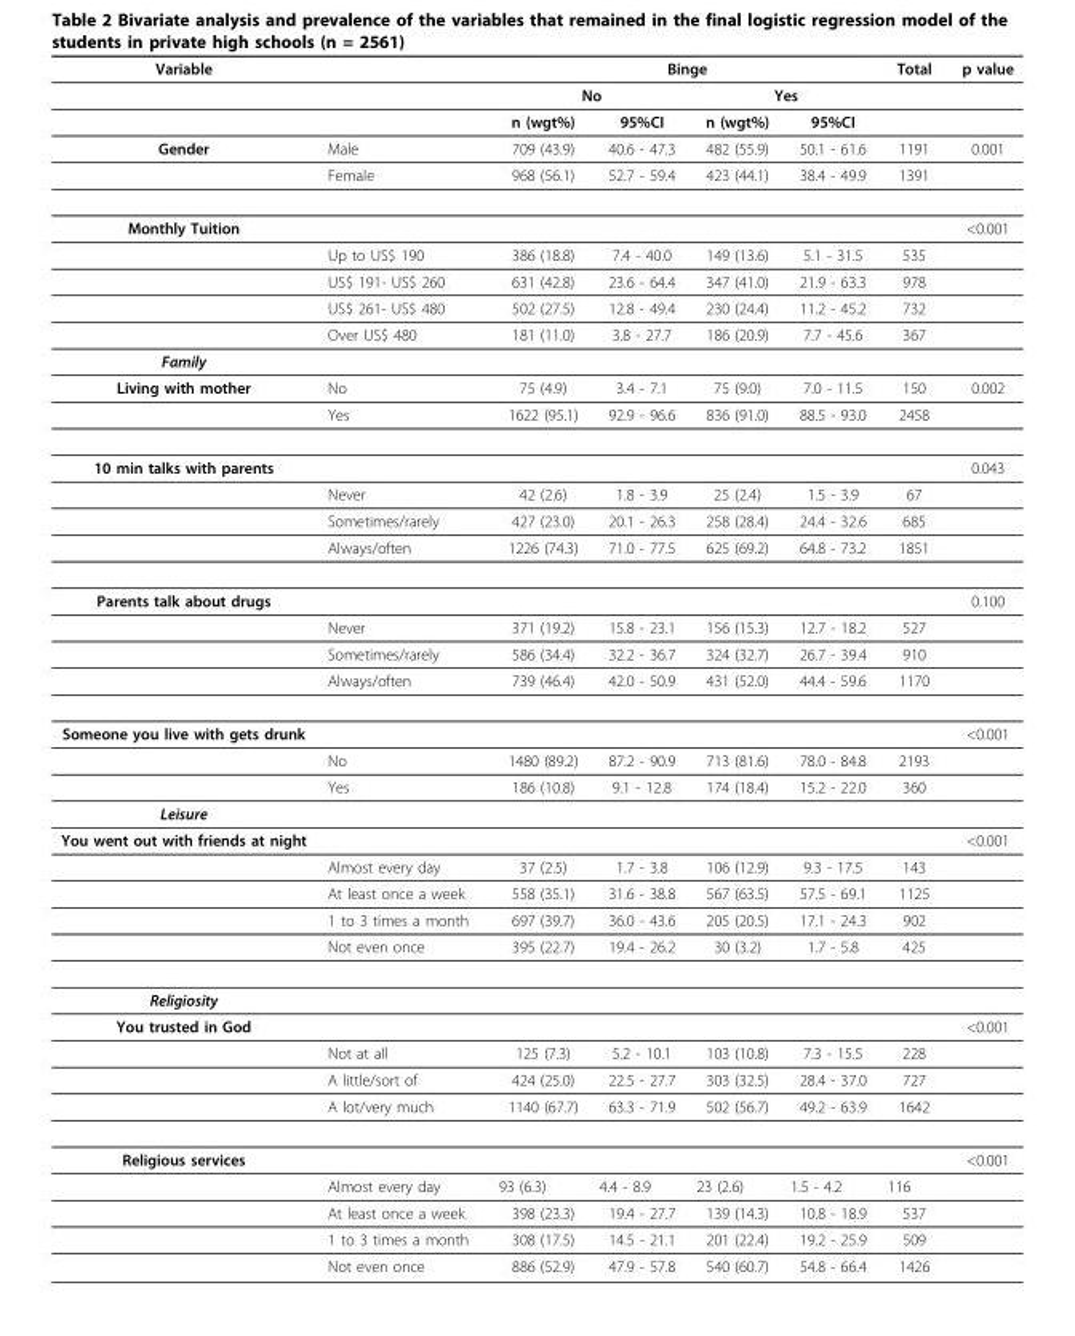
<table><thead><tr><td rowspan="3">Variable</td><td rowspan="3"></td><td colspan="4">Binge</td><td rowspan="3">Total</td><td rowspan="3">p value</td></tr><tr><td colspan="2">No</td><td colspan="2">Yes</td></tr><tr><td>n (wgt%)</td><td>95%CI</td><td>n (wgt%)</td><td>95%CI</td></tr></thead><tbody><tr><td rowspan="2">Gender</td><td>Male</td><td>709 (43.9)</td><td>40.6 - 47.3</td><td>482 (55.9)</td><td>50.1 - 61.6</td><td>1191</td><td>0.001</td></tr><tr><td>Female</td><td>968 (56.1)</td><td>52.7 - 59.4</td><td>423 (44.1)</td><td>38.4 - 49.9</td><td>1391</td><td></td></tr><tr><td rowspan="5">Monthly Tuition</td><td></td><td></td><td></td><td></td><td></td><td></td><td>&lt;0.001</td></tr><tr><td>Up to US$ 190</td><td>386 (18.8)</td><td>7.4 - 40.0</td><td>149 (13.6)</td><td>5.1 - 31.5</td><td>535</td><td></td></tr><tr><td>US$ 191- US$ 260</td><td>631 (42.8)</td><td>23.6 - 64.4</td><td>347 (41.0)</td><td>21.9 - 63.3</td><td>978</td><td></td></tr><tr><td>US$ 261- US$ 480</td><td>502 (27.5)</td><td>12.8 - 49.4</td><td>230 (24.4)</td><td>11.2 - 45.2</td><td>732</td><td></td></tr><tr><td>Over US$ 480</td><td>181 (11.0)</td><td>3.8 - 27.7</td><td>186 (20.9)</td><td>7.7 - 45.6</td><td>367</td><td></td></tr><tr><td colspan="8">Family</td></tr><tr><td rowspan="2">Living with mother</td><td>No</td><td>75 (4.9)</td><td>3.4 - 7.1</td><td>75 (9.0)</td><td>7.0 - 11.5</td><td>150</td><td>0.002</td></tr><tr><td>Yes</td><td>1622 (95.1)</td><td>92.9 - 96.6</td><td>836 (91.0)</td><td>88.5 - 93.0</td><td>2458</td><td></td></tr><tr><td rowspan="4">10 min talks with parents</td><td></td><td></td><td></td><td></td><td></td><td></td><td>0.043</td></tr><tr><td>Never</td><td>42 (2.6)</td><td>1.8 - 3.9</td><td>25 (2.4)</td><td>1.5 - 3.9</td><td>67</td><td></td></tr><tr><td>Sometimes/rarely</td><td>427 (23.0)</td><td>20.1 - 26.3</td><td>258 (28.4)</td><td>24.4 - 32.6</td><td>685</td><td></td></tr><tr><td>Always/often</td><td>1226 (74.3)</td><td>71.0 - 77.5</td><td>625 (69.2)</td><td>64.8 - 73.2</td><td>1851</td><td></td></tr><tr><td rowspan="4">Parents talk about drugs</td><td></td><td></td><td></td><td></td><td></td><td></td><td>0.100</td></tr><tr><td>Never</td><td>371 (19.2)</td><td>15.8 - 23.1</td><td>156 (15.3)</td><td>12.7 - 18.2</td><td>527</td><td></td></tr><tr><td>Sometimes/rarely</td><td>586 (34.4)</td><td>32.2 - 36.7</td><td>324 (32.7)</td><td>26.7 - 39.4</td><td>910</td><td></td></tr><tr><td>Always/often</td><td>739 (46.4)</td><td>42.0 - 50.9</td><td>431 (52.0)</td><td>44.4 - 59.6</td><td>1170</td><td></td></tr><tr><td rowspan="3">Someone you live with gets drunk</td><td></td><td></td><td></td><td></td><td></td><td></td><td>&lt;0.001</td></tr><tr><td>No</td><td>1480 (89.2)</td><td>87.2 - 90.9</td><td>713 (81.6)</td><td>78.0 - 84.8</td><td>2193</td><td></td></tr><tr><td>Yes</td><td>186 (10.8)</td><td>9.1 - 12.8</td><td>174 (18.4)</td><td>15.2 - 22.0</td><td>360</td><td></td></tr><tr><td colspan="8">Leisure</td></tr><tr><td rowspan="5">You went out with friends at night</td><td></td><td></td><td></td><td></td><td></td><td></td><td>&lt;0.001</td></tr><tr><td>Almost every day</td><td>37 (2.5)</td><td>1.7 - 3.8</td><td>106 (12.9)</td><td>9.3 - 17.5</td><td>143</td><td></td></tr><tr><td>At least once a week</td><td>558 (35.1)</td><td>31.6 - 38.8</td><td>567 (63.5)</td><td>57.5 - 69.1</td><td>1125</td><td></td></tr><tr><td>1 to 3 times a month</td><td>697 (39.7)</td><td>36.0 - 43.6</td><td>205 (20.5)</td><td>17.1 - 24.3</td><td>902</td><td></td></tr><tr><td>Not even once</td><td>395 (22.7)</td><td>19.4 - 26.2</td><td>30 (3.2)</td><td>1.7 - 5.8</td><td>425</td><td></td></tr><tr><td colspan="8">Religiosity</td></tr><tr><td rowspan="4">You trusted in God</td><td></td><td></td><td></td><td></td><td></td><td></td><td>&lt;0.001</td></tr><tr><td>Not at all</td><td>125 (7.3)</td><td>5.2 - 10.1</td><td>103 (10.8)</td><td>7.3 - 15.5</td><td>228</td><td></td></tr><tr><td>A little/sort of</td><td>424 (25.0)</td><td>22.5 - 27.7</td><td>303 (32.5)</td><td>28.4 - 37.0</td><td>727</td><td></td></tr><tr><td>A lot/very much</td><td>1140 (67.7)</td><td>63.3 - 71.9</td><td>502 (56.7)</td><td>49.2 - 63.9</td><td>1642</td><td></td></tr><tr><td rowspan="5">Religious services</td><td></td><td></td><td></td><td></td><td></td><td></td><td>&lt;0.001</td></tr><tr><td>Almost every day</td><td>93 (6.3)</td><td>4.4 - 8.9</td><td>23 (2.6)</td><td>1.5 - 4.2</td><td>116</td><td></td></tr><tr><td>At least once a week</td><td>398 (23.3)</td><td>19.4 - 27.7</td><td>139 (14.3)</td><td>10.8 - 18.9</td><td>537</td><td></td></tr><tr><td>1 to 3 times a month</td><td>308 (17.5)</td><td>14.5 - 21.1</td><td>201 (22.4)</td><td>19.2 - 25.9</td><td>509</td><td></td></tr><tr><td>Not even once</td><td>886 (52.9)</td><td>47.9 - 57.8</td><td>540 (60.7)</td><td>54.8 - 66.4</td><td>1426</td><td></td></tr></tbody></table>